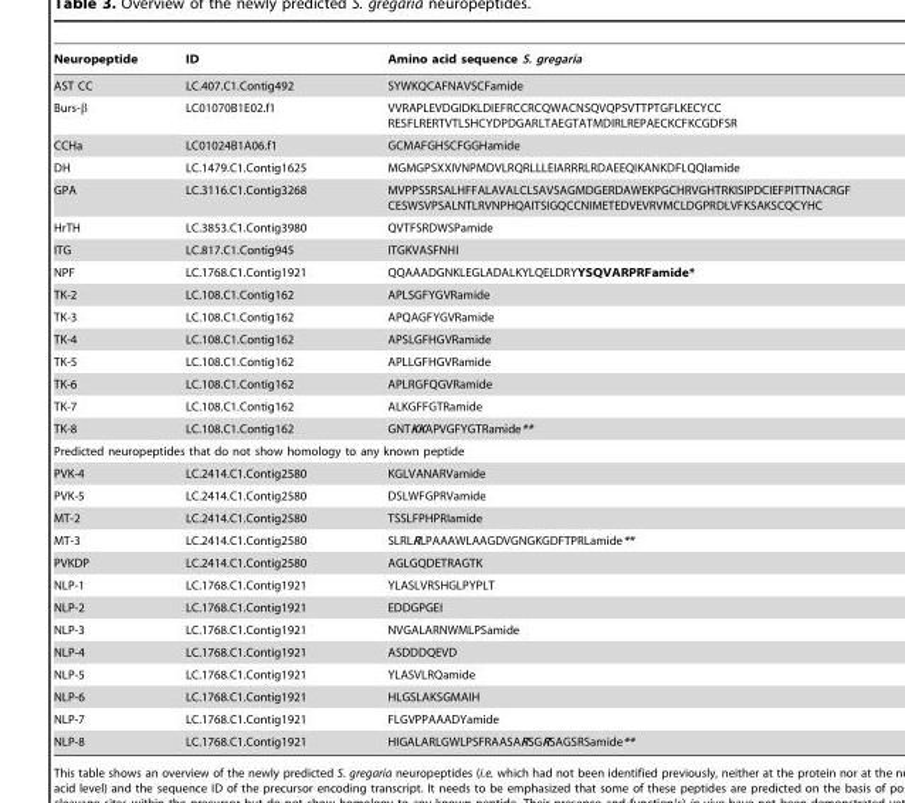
<table><thead><tr><td>Neuropeptide</td><td>ID</td><td>Amino acid sequence S. gregaria</td></tr></thead><tbody><tr><td>AST CC</td><td>LC.407.C1.Contig492</td><td>SYWKQCAFNAVSCFamide</td></tr><tr><td>Burs-β</td><td>LC01070B1E02.f1</td><td>VVRAPLEVDGIDKLDIEFRCCRCQWACNSQVQPSVTTPTGFLKECYCC RESFLRERTVTLSHCYDPDGARLTAEGTATMDIRLREPAECKCFKCGDFSR</td></tr><tr><td>CCHa</td><td>LC01024B1A06.f1</td><td>GCMAFGHSCFGGHamide</td></tr><tr><td>DH</td><td>LC.1479.C1.Contig1625</td><td>MGMGPSXXIVNPMDVLRQRLLLEIARRRLRDAEEQIKANKDFLQQIamide</td></tr><tr><td>GPA</td><td>LC.3116.C1.Contig3268</td><td>MVPPSSRSALHFFALAVALCLSAVSAGMDGERDAWEKPGCHRVGHTRKISIPDCIEFPITTNACRGF CESWSVPSALNTLRVNPHQAITSIGQCCNIMETEDVEVRVMCLDGPRDLVFKSAKSCQCYHC</td></tr><tr><td>HrTH</td><td>LC.3853.C1.Contig3980</td><td>QVTFSRDWSPamide</td></tr><tr><td>ITG</td><td>LC.817.C1.Contig945</td><td>ITGKVASFNHI</td></tr><tr><td>NPF</td><td>LC.1768.C1.Contig1921</td><td>QQAAADGNKLEGLADALKYLQELDRYYSQVARPRFamide*</td></tr><tr><td>TK-2</td><td>LC.108.C1.Contig162</td><td>APLSGFYGVRamide</td></tr><tr><td>TK-3</td><td>LC.108.C1.Contig162</td><td>APQAGFYGVRamide</td></tr><tr><td>TK-4</td><td>LC.108.C1.Contig162</td><td>APSLGFHGVRamide</td></tr><tr><td>TK-5</td><td>LC.108.C1.Contig162</td><td>APLLGFHGVRamide</td></tr><tr><td>TK-6</td><td>LC.108.C1.Contig162</td><td>APLRGFQGVRamide</td></tr><tr><td>TK-7</td><td>LC.108.C1.Contig162</td><td>ALKGFFGTRamide</td></tr><tr><td>TK-8</td><td>LC.108.C1.Contig162</td><td>GNTKKAPVGFYGTRamide**</td></tr><tr><td colspan="3">Predicted neuropeptides that do not show homology to any known peptide</td></tr><tr><td>PVK-4</td><td>LC.2414.C1.Contig2580</td><td>KGLVANARVamide</td></tr><tr><td>PVK-5</td><td>LC.2414.C1.Contig2580</td><td>DSLWFGPRVamide</td></tr><tr><td>MT-2</td><td>LC.2414.C1.Contig2580</td><td>TSSLFPHPRIamide</td></tr><tr><td>MT-3</td><td>LC.2414.C1.Contig2580</td><td>SLRLRLPAAAWLAAGDVGNGKGDFTPRLamide**</td></tr><tr><td>PVKDP</td><td>LC.2414.C1.Contig2580</td><td>AGLGQDETRAGTK</td></tr><tr><td>NLP-1</td><td>LC.1768.C1.Contig1921</td><td>YLASLVRSHGLPYPLT</td></tr><tr><td>NLP-2</td><td>LC.1768.C1.Contig1921</td><td>EDDGPGEI</td></tr><tr><td>NLP-3</td><td>LC.1768.C1.Contig1921</td><td>NVGALARNWMLPSamide</td></tr><tr><td>NLP-4</td><td>LC.1768.C1.Contig1921</td><td>ASDDDQEVD</td></tr><tr><td>NLP-5</td><td>LC.1768.C1.Contig1921</td><td>YLASVLRQamide</td></tr><tr><td>NLP-6</td><td>LC.1768.C1.Contig1921</td><td>HLGSLAKSGMAIH</td></tr><tr><td>NLP-7</td><td>LC.1768.C1.Contig1921</td><td>FLGVPPAAADYamide</td></tr><tr><td>NLP-8</td><td>LC.1768.C1.Contig1921</td><td>HIGALARLGWLPSFRAASARSGRSAGSRSamide**</td></tr></tbody></table>